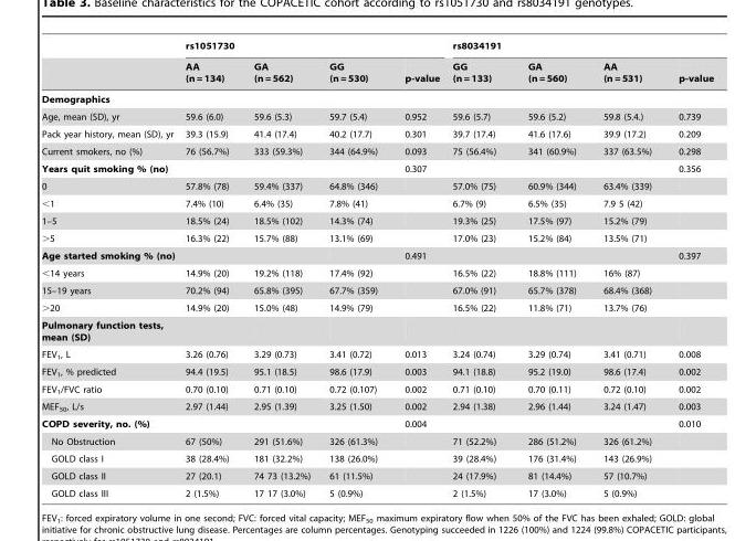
<table><thead><tr><td rowspan="2"></td><td colspan="4">rs1051730</td><td colspan="4">rs8034191</td></tr><tr><td>AA (n = 134)</td><td>GA (n = 562)</td><td>GG (n = 530)</td><td>p-value</td><td>GG (n = 133)</td><td>GA (n = 560)</td><td>AA (n = 531)</td><td>p-value</td></tr></thead><tbody><tr><td colspan="9">Demographics</td></tr><tr><td>Age, mean (SD), yr</td><td>59.6 (6.0)</td><td>59.6 (5.3)</td><td>59.7 (5.4)</td><td>0.952</td><td>59.6 (5.7)</td><td>59.6 (5.2)</td><td>59.8 (5.4.)</td><td>0.739</td></tr><tr><td>Pack year history, mean (SD), yr</td><td>39.3 (15.9)</td><td>41.4 (17.4)</td><td>40.2 (17.7)</td><td>0.301</td><td>39.7 (17.4)</td><td>41.6 (17.6)</td><td>39.9 (17.2)</td><td>0.209</td></tr><tr><td>Current smokers, no (%)</td><td>76 (56.7%)</td><td>333 (59.3%)</td><td>344 (64.9%)</td><td>0.093</td><td>75 (56.4%)</td><td>341 (60.9%)</td><td>337 (63.5%)</td><td>0.298</td></tr><tr><td>Years quit smoking % (no)</td><td></td><td></td><td></td><td>0.307</td><td></td><td></td><td></td><td>0.356</td></tr><tr><td>0</td><td>57.8% (78)</td><td>59.4% (337)</td><td>64.8% (346)</td><td></td><td>57.0% (75)</td><td>60.9% (344)</td><td>63.4% (339)</td><td></td></tr><tr><td>&lt;1</td><td>7.4% (10)</td><td>6.4% (35)</td><td>7.8% (41)</td><td></td><td>6.7% (9)</td><td>6.5% (35)</td><td>7.9 5 (42)</td><td></td></tr><tr><td>1–5</td><td>18.5% (24)</td><td>18.5% (102)</td><td>14.3% (74)</td><td></td><td>19.3% (25)</td><td>17.5% (97)</td><td>15.2% (79)</td><td></td></tr><tr><td>&gt;5</td><td>16.3% (22)</td><td>15.7% (88)</td><td>13.1% (69)</td><td></td><td>17.0% (23)</td><td>15.2% (84)</td><td>13.5% (71)</td><td></td></tr><tr><td>Age started smoking % (no)</td><td></td><td></td><td></td><td>0.491</td><td></td><td></td><td></td><td>0.397</td></tr><tr><td>&lt;14 years</td><td>14.9% (20)</td><td>19.2% (118)</td><td>17.4% (92)</td><td></td><td>16.5% (22)</td><td>18.8% (111)</td><td>16% (87)</td><td></td></tr><tr><td>15–19 years</td><td>70.2% (94)</td><td>65.8% (395)</td><td>67.7% (359)</td><td></td><td>67.0% (91)</td><td>65.7% (378)</td><td>68.4% (368)</td><td></td></tr><tr><td>&gt;20</td><td>14.9% (20)</td><td>15.0% (48)</td><td>14.9% (79)</td><td></td><td>16.5% (22)</td><td>11.8% (71)</td><td>13.7% (76)</td><td></td></tr><tr><td colspan="9">Pulmonary function tests, mean (SD)</td></tr><tr><td>FEV<sub>1</sub>, L</td><td>3.26 (0.76)</td><td>3.29 (0.73)</td><td>3.41 (0.72)</td><td>0.013</td><td>3.24 (0.74)</td><td>3.29 (0.74)</td><td>3.41 (0.71)</td><td>0.008</td></tr><tr><td>FEV<sub>1</sub>, % predicted</td><td>94.4 (19.5)</td><td>95.1 (18.5)</td><td>98.6 (17.9)</td><td>0.003</td><td>94.1 (18.8)</td><td>95.2 (19.0)</td><td>98.6 (17.4)</td><td>0.002</td></tr><tr><td>FEV<sub>1</sub>/FVC ratio</td><td>0.70 (0.10)</td><td>0.71 (0.10)</td><td>0.72 (0.107)</td><td>0.002</td><td>0.71 (0.10)</td><td>0.70 (0.11)</td><td>0.72 (0.10)</td><td>0.002</td></tr><tr><td>MEF<sub>50</sub>, L/s</td><td>2.97 (1.44)</td><td>2.95 (1.39)</td><td>3.25 (1.50)</td><td>0.002</td><td>2.94 (1.38)</td><td>2.96 (1.44)</td><td>3.24 (1.47)</td><td>0.003</td></tr><tr><td>COPD severity, no. (%)</td><td></td><td></td><td></td><td>0.004</td><td></td><td></td><td></td><td>0.010</td></tr><tr><td>No Obstruction</td><td>67 (50%)</td><td>291 (51.6%)</td><td>326 (61.3%)</td><td></td><td>71 (52.2%)</td><td>286 (51.2%)</td><td>326 (61.2%)</td><td></td></tr><tr><td>GOLD class I</td><td>38 (28.4%)</td><td>181 (32.2%)</td><td>138 (26.0%)</td><td></td><td>39 (28.4%)</td><td>176 (31.4%)</td><td>143 (26.9%)</td><td></td></tr><tr><td>GOLD class II</td><td>27 (20.1)</td><td>74 73 (13.2%)</td><td>61 (11.5%)</td><td></td><td>24 (17.9%)</td><td>81 (14.4%)</td><td>57 (10.7%)</td><td></td></tr><tr><td>GOLD class III</td><td>2 (1.5%)</td><td>17 17 (3.0%)</td><td>5 (0.9%)</td><td></td><td>2 (1.5%)</td><td>17 (3.0%)</td><td>5 (0.9%)</td><td></td></tr></tbody></table>